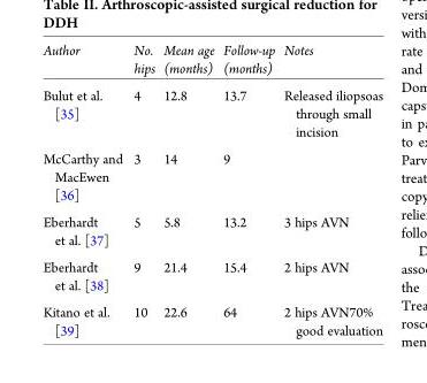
<table><thead><tr><td>Author</td><td>No. hips</td><td>Mean age (months)</td><td>Follow-up (months)</td><td>Notes</td></tr></thead><tbody><tr><td>Bulut et al. [35]</td><td>4</td><td>12.8</td><td>13.7</td><td>Released iliopsoas through small incision</td></tr><tr><td>McCarthy and MacEwen [36]</td><td>3</td><td>14</td><td>9</td><td></td></tr><tr><td>Eberhardt et al. [37]</td><td>5</td><td>5.8</td><td>13.2</td><td>3 hips AVN</td></tr><tr><td>Eberhardt et al. [38]</td><td>9</td><td>21.4</td><td>15.4</td><td>2 hips AVN</td></tr><tr><td>Kitano et al. [39]</td><td>10</td><td>22.6</td><td>64</td><td>2 hips AVN70% good evaluation</td></tr></tbody></table>